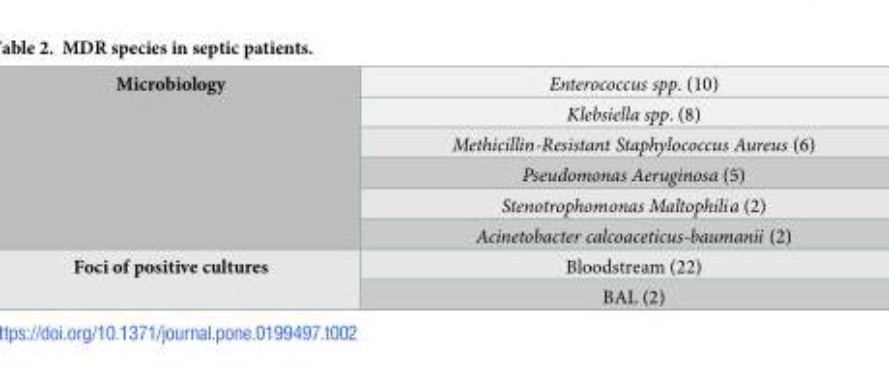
<table><tbody><tr><td rowspan="6">Microbiology</td><td>Enterococcus spp. (10)</td></tr><tr><td>Klebsiella spp. (8)</td></tr><tr><td>Methicillin-Resistant Staphylococcus Aureus (6)</td></tr><tr><td>Pseudomonas Aeruginosa (5)</td></tr><tr><td>Stenotrophomonas Maltophilia (2)</td></tr><tr><td>Acinetobacter calcoaceticus-baumanii (2)</td></tr><tr><td rowspan="2">Foci of positive cultures</td><td>Bloodstream (22)</td></tr><tr><td>BAL (2)</td></tr></tbody></table>